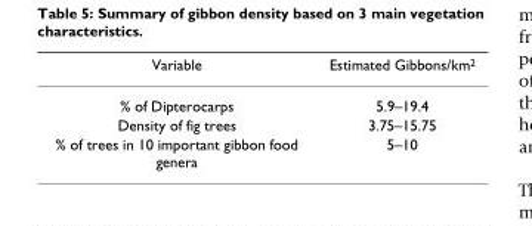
<table><thead><tr><td>Variable</td><td>Estimated Gibbons/km2</td></tr></thead><tbody><tr><td>% of Dipterocarps</td><td>5.9–19.4</td></tr><tr><td>Density of fig trees</td><td>3.75–15.75</td></tr><tr><td>% of trees in 10 important gibbon food genera</td><td>5–10</td></tr></tbody></table>